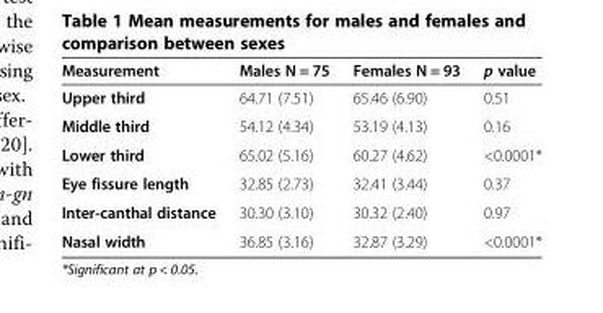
<table><thead><tr><td>Measurement</td><td>Males N = 75</td><td>Females N = 93</td><td>p value</td></tr></thead><tbody><tr><td>Upper third</td><td>64.71 (7.51)</td><td>65.46 (6.90)</td><td>0.51</td></tr><tr><td>Middle third</td><td>54.12 (4.34)</td><td>53.19 (4.13)</td><td>0.16</td></tr><tr><td>Lower third</td><td>65.02 (5.16)</td><td>60.27 (4.62)</td><td>&lt;0.0001*</td></tr><tr><td>Eye fissure length</td><td>32.85 (2.73)</td><td>32.41 (3.44)</td><td>0.37</td></tr><tr><td>Inter-canthal distance</td><td>30.30 (3.10)</td><td>30.32 (2.40)</td><td>0.97</td></tr><tr><td>Nasal width</td><td>36.85 (3.16)</td><td>32.87 (3.29)</td><td>&lt;0.0001*</td></tr></tbody></table>